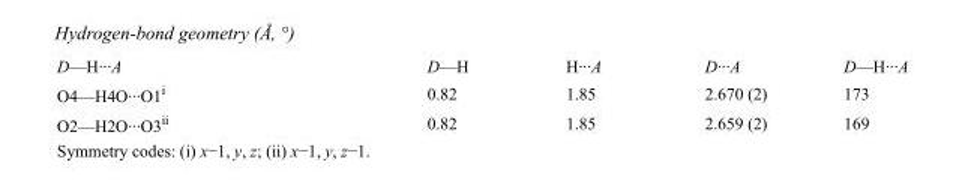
<table><tbody><tr><td>D—H···A</td><td>D—H</td><td>H···A</td><td>D···A</td><td>D—H···A</td></tr><tr><td>O4—H4O···O1<sup>i</sup></td><td>0.82</td><td>1.85</td><td>2.670 (2)</td><td>173</td></tr><tr><td>O2—H2O···O3<sup>ii</sup></td><td>0.82</td><td>1.85</td><td>2.659 (2)</td><td>169</td></tr></tbody></table>